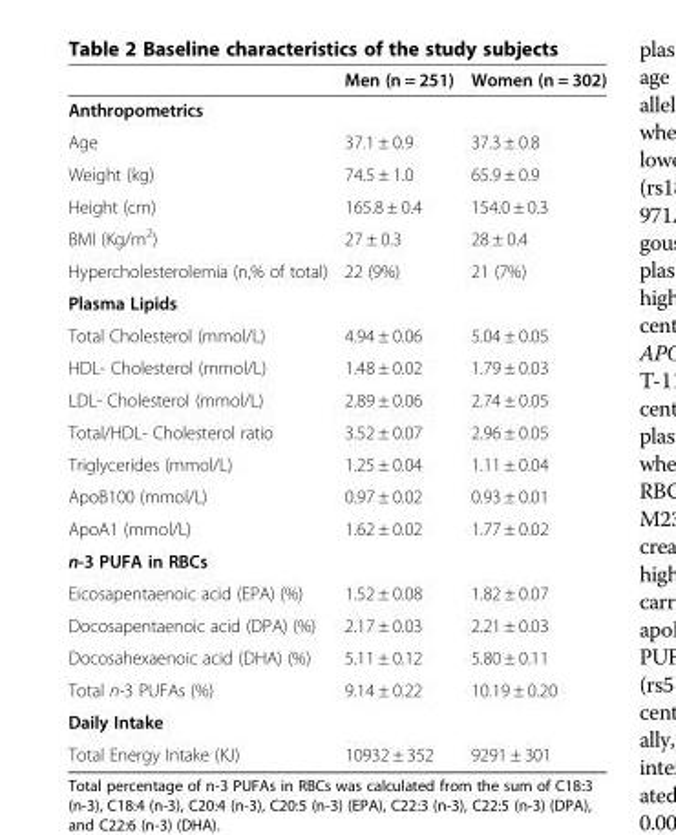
<table><thead><tr><td></td><td>Men (n = 251)</td><td>Women (n = 302)</td></tr></thead><tbody><tr><td colspan="3">Anthropometrics</td></tr><tr><td>Age</td><td>37.1 ± 0.9</td><td>37.3 ± 0.8</td></tr><tr><td>Weight (kg)</td><td>74.5 ± 1.0</td><td>65.9 ± 0.9</td></tr><tr><td>Height (cm)</td><td>165.8 ± 0.4</td><td>154.0 ± 0.3</td></tr><tr><td>BMI (Kg/m<sup>2</sup>)</td><td>27 ± 0.3</td><td>28 ± 0.4</td></tr><tr><td>Hypercholesterolemia (n,% of total)</td><td>22 (9%)</td><td>21 (7%)</td></tr><tr><td colspan="3">Plasma Lipids</td></tr><tr><td>Total Cholesterol (mmol/L)</td><td>4.94 ± 0.06</td><td>5.04 ± 0.05</td></tr><tr><td>HDL- Cholesterol (mmol/L)</td><td>1.48 ± 0.02</td><td>1.79 ± 0.03</td></tr><tr><td>LDL- Cholesterol (mmol/L)</td><td>2.89 ± 0.06</td><td>2.74 ± 0.05</td></tr><tr><td>Total/HDL- Cholesterol ratio</td><td>3.52 ± 0.07</td><td>2.96 ± 0.05</td></tr><tr><td>Triglycerides (mmol/L)</td><td>1.25 ± 0.04</td><td>1.11 ± 0.04</td></tr><tr><td>ApoB100 (mmol/L)</td><td>0.97 ± 0.02</td><td>0.93 ± 0.01</td></tr><tr><td>ApoA1 (mmol/L)</td><td>1.62 ± 0.02</td><td>1.77 ± 0.02</td></tr><tr><td colspan="3">n-3 PUFA in RBCs</td></tr><tr><td>Eicosapentaenoic acid (EPA) (%)</td><td>1.52 ± 0.08</td><td>1.82 ± 0.07</td></tr><tr><td>Docosapentaenoic acid (DPA) (%)</td><td>2.17 ± 0.03</td><td>2.21 ± 0.03</td></tr><tr><td>Docosahexaenoic acid (DHA) (%)</td><td>5.11 ± 0.12</td><td>5.80 ± 0.11</td></tr><tr><td>Total n-3 PUFAs (%)</td><td>9.14 ± 0.22</td><td>10.19 ± 0.20</td></tr><tr><td colspan="3">Daily Intake</td></tr><tr><td>Total Energy Intake (KJ)</td><td>10932 ± 352</td><td>9291 ± 301</td></tr></tbody></table>